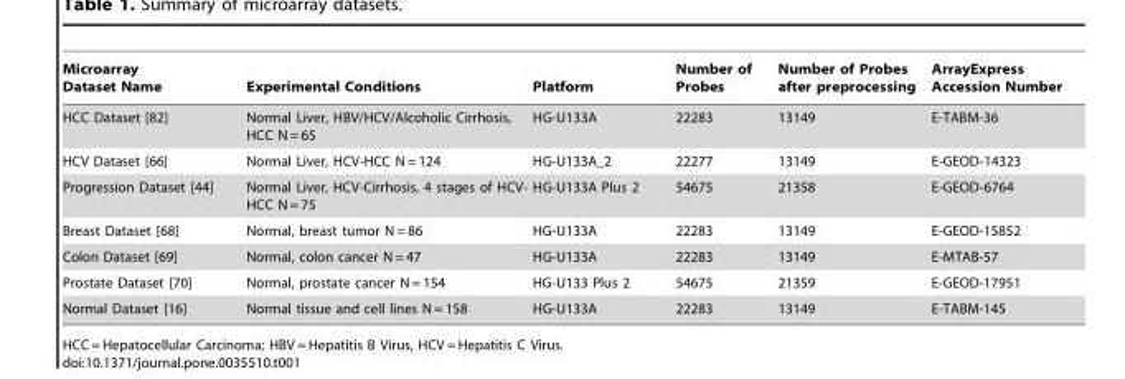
<table><thead><tr><td>Microarray Dataset Name</td><td>Experimental Conditions</td><td>Platform</td><td>Number of Probes</td><td>Number of Probes after preprocessing</td><td>ArrayExpress Accession Number</td></tr></thead><tbody><tr><td>HCC Dataset [82]</td><td>Normal Liver, HBV/HCV/Alcoholic Cirrhosis, HCC N = 65</td><td>HG-U133A</td><td>22283</td><td>13149</td><td>E-TABM-36</td></tr><tr><td>HCV Dataset [66]</td><td>Normal Liver, HCV-HCC N = 124</td><td>HG-U133A_2</td><td>22277</td><td>13149</td><td>E-GEOD-14323</td></tr><tr><td>Progression Dataset [44]</td><td>Normal Liver, HCV-Cirrhosis, 4 stages of HCV- HCC N = 75</td><td>HG-U133A Plus 2</td><td>54675</td><td>21358</td><td>E-GEOD-6764</td></tr><tr><td>Breast Dataset [68]</td><td>Normal, breast tumor N = 86</td><td>HG-U133A</td><td>22283</td><td>13149</td><td>E-GEOD-15852</td></tr><tr><td>Colon Dataset [69]</td><td>Normal, colon cancer N = 47</td><td>HG-U133A</td><td>22283</td><td>13149</td><td>E-MTAB-57</td></tr><tr><td>Prostate Dataset [70]</td><td>Normal, prostate cancer N = 154</td><td>HG-U133 Plus 2</td><td>54675</td><td>21359</td><td>E-GEOD-17951</td></tr><tr><td>Normal Dataset [16]</td><td>Normal tissue and cell lines N = 158</td><td>HG-U133A</td><td>22283</td><td>13149</td><td>E-TABM-145</td></tr></tbody></table>